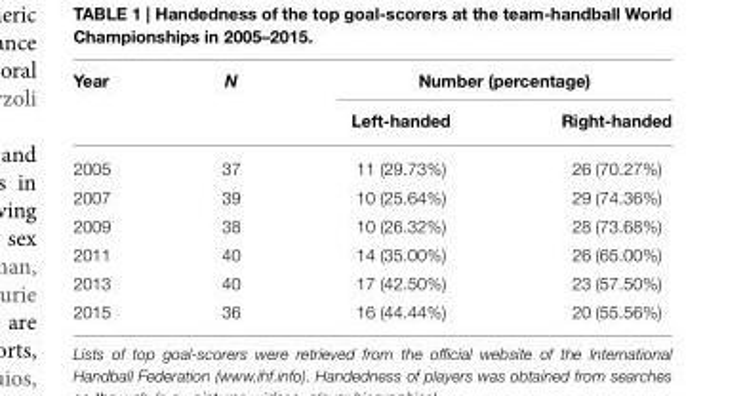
<table><thead><tr><td rowspan="2">Year</td><td rowspan="2">N</td><td colspan="2">Number (percentage)</td></tr><tr><td>Left-handed</td><td>Right-handed</td></tr></thead><tbody><tr><td>2005</td><td>37</td><td>11 (29.73%)</td><td>26 (70.27%)</td></tr><tr><td>2007</td><td>39</td><td>10 (25.64%)</td><td>29 (74.36%)</td></tr><tr><td>2009</td><td>38</td><td>10 (26.32%)</td><td>28 (73.68%)</td></tr><tr><td>2011</td><td>40</td><td>14 (35.00%)</td><td>26 (65.00%)</td></tr><tr><td>2013</td><td>40</td><td>17 (42.50%)</td><td>23 (57.50%)</td></tr><tr><td>2015</td><td>36</td><td>16 (44.44%)</td><td>20 (55.56%)</td></tr></tbody></table>